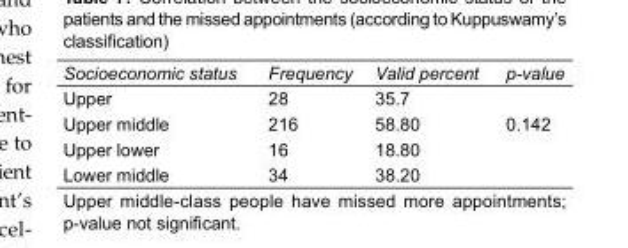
<table><tbody><tr><td>Socioeconomic status</td><td>Frequency</td><td>Valid percent</td><td>p-value</td></tr><tr><td>Upper</td><td>28</td><td>35.7</td><td></td></tr><tr><td>Upper middle</td><td>216</td><td>58.80</td><td>0.142</td></tr><tr><td>Upper lower</td><td>16</td><td>18.80</td><td></td></tr><tr><td>Lower middle</td><td>34</td><td>38.20</td><td></td></tr></tbody></table>